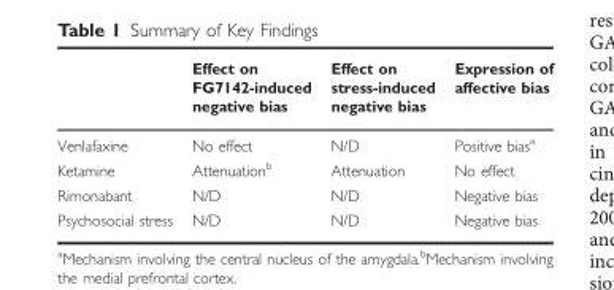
<table><thead><tr><td></td><td>Effect on FG7142-induced negative bias</td><td>Effect on stress-induced negative bias</td><td>Expression of affective bias</td></tr></thead><tbody><tr><td>Venlafaxine</td><td>No effect</td><td>N/D</td><td>Positive bias<sup>a</sup></td></tr><tr><td>Ketamine</td><td>Attenuation<sup>b</sup></td><td>Attenuation</td><td>No effect</td></tr><tr><td>Rimonabant</td><td>N/D</td><td>N/D</td><td>Negative bias</td></tr><tr><td>Psychosocial stress</td><td>N/D</td><td>N/D</td><td>Negative bias</td></tr></tbody></table>